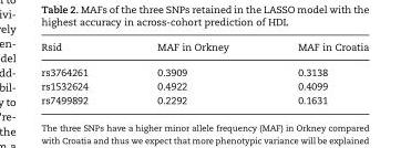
<table><thead><tr><td>Rsid</td><td>MAF in Orkney</td><td>MAF in Croatia</td></tr></thead><tbody><tr><td>rs3764261</td><td>0.3909</td><td>0.3138</td></tr><tr><td>rs1532624</td><td>0.4922</td><td>0.4099</td></tr><tr><td>rs7499892</td><td>0.2292</td><td>0.1631</td></tr></tbody></table>